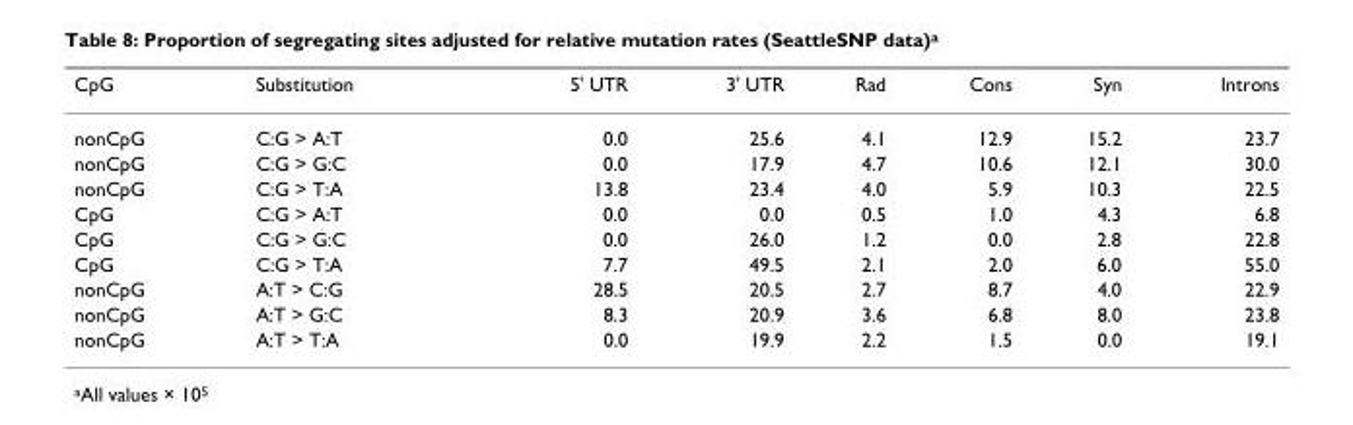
<table><thead><tr><td>CpG</td><td>Substitution</td><td>5&#x27; UTR</td><td>3&#x27; UTR</td><td>Rad</td><td>Cons</td><td>Syn</td><td>Introns</td></tr></thead><tbody><tr><td>nonCpG</td><td>C:G &gt; A:T</td><td>0.0</td><td>25.6</td><td>4.1</td><td>12.9</td><td>15.2</td><td>23.7</td></tr><tr><td>nonCpG</td><td>C:G &gt; G:C</td><td>0.0</td><td>17.9</td><td>4.7</td><td>10.6</td><td>12.1</td><td>30.0</td></tr><tr><td>nonCpG</td><td>C:G &gt; T:A</td><td>13.8</td><td>23.4</td><td>4.0</td><td>5.9</td><td>10.3</td><td>22.5</td></tr><tr><td>CpG</td><td>C:G &gt; A:T</td><td>0.0</td><td>0.0</td><td>0.5</td><td>1.0</td><td>4.3</td><td>6.8</td></tr><tr><td>CpG</td><td>C:G &gt; G:C</td><td>0.0</td><td>26.0</td><td>1.2</td><td>0.0</td><td>2.8</td><td>22.8</td></tr><tr><td>CpG</td><td>C:G &gt; T:A</td><td>7.7</td><td>49.5</td><td>2.1</td><td>2.0</td><td>6.0</td><td>55.0</td></tr><tr><td>nonCpG</td><td>A:T &gt; C:G</td><td>28.5</td><td>20.5</td><td>2.7</td><td>8.7</td><td>4.0</td><td>22.9</td></tr><tr><td>nonCpG</td><td>A:T &gt; G:C</td><td>8.3</td><td>20.9</td><td>3.6</td><td>6.8</td><td>8.0</td><td>23.8</td></tr><tr><td>nonCpG</td><td>A:T &gt; T:A</td><td>0.0</td><td>19.9</td><td>2.2</td><td>1.5</td><td>0.0</td><td>19.1</td></tr></tbody></table>